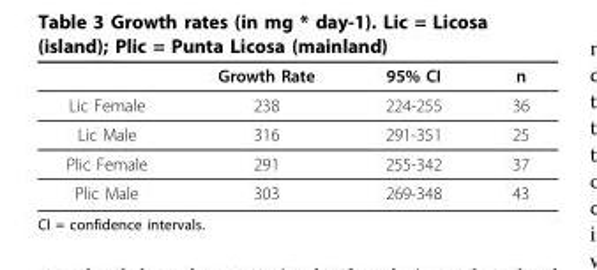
<table><thead><tr><td></td><td>Growth Rate</td><td>95% CI</td><td>n</td></tr></thead><tbody><tr><td>Lic Female</td><td>238</td><td>224-255</td><td>36</td></tr><tr><td>Lic Male</td><td>316</td><td>291-351</td><td>25</td></tr><tr><td>Plic Female</td><td>291</td><td>255-342</td><td>37</td></tr><tr><td>Plic Male</td><td>303</td><td>269-348</td><td>43</td></tr></tbody></table>